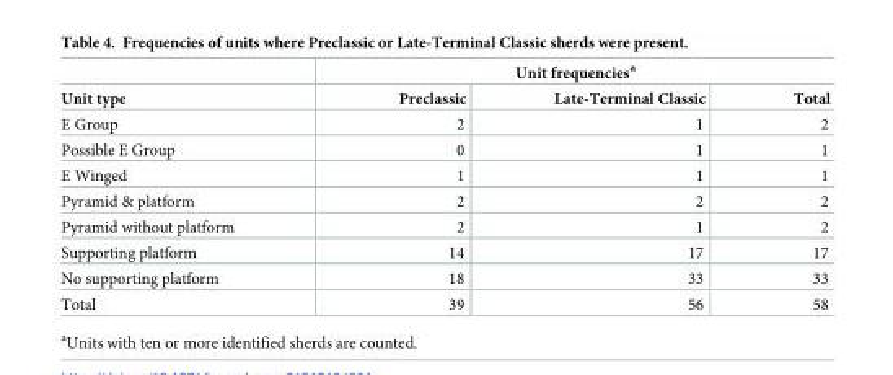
<table><thead><tr><td rowspan="2">Unit type</td><td colspan="3">Unit frequencies<sup>a</sup></td></tr><tr><td>Preclassic</td><td>Late-Terminal Classic</td><td>Total</td></tr></thead><tbody><tr><td>E Group</td><td>2</td><td>1</td><td>2</td></tr><tr><td>Possible E Group</td><td>0</td><td>1</td><td>1</td></tr><tr><td>E Winged</td><td>1</td><td>1</td><td>1</td></tr><tr><td>Pyramid &amp; platform</td><td>2</td><td>2</td><td>2</td></tr><tr><td>Pyramid without platform</td><td>2</td><td>1</td><td>2</td></tr><tr><td>Supporting platform</td><td>14</td><td>17</td><td>17</td></tr><tr><td>No supporting platform</td><td>18</td><td>33</td><td>33</td></tr><tr><td>Total</td><td>39</td><td>56</td><td>58</td></tr></tbody></table>